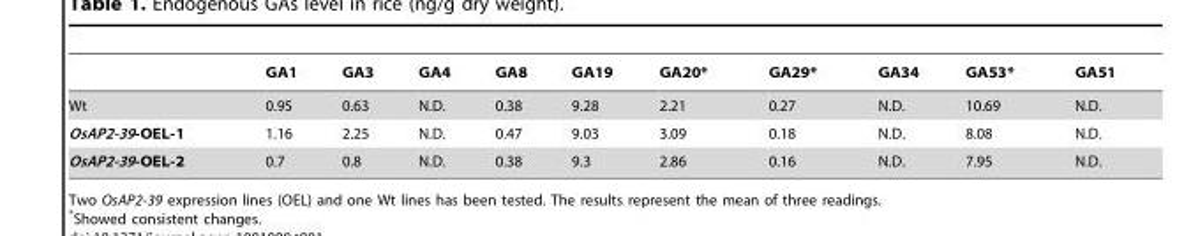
<table><thead><tr><td></td><td>GA1</td><td>GA3</td><td>GA4</td><td>GA8</td><td>GA19</td><td>GA20*</td><td>GA29*</td><td>GA34</td><td>GA53*</td><td>GA51</td></tr></thead><tbody><tr><td>Wt</td><td>0.95</td><td>0.63</td><td>N.D.</td><td>0.38</td><td>9.28</td><td>2.21</td><td>0.27</td><td>N.D.</td><td>10.69</td><td>N.D.</td></tr><tr><td>OsAP2-39-OEL-1</td><td>1.16</td><td>2.25</td><td>N.D.</td><td>0.47</td><td>9.03</td><td>3.09</td><td>0.18</td><td>N.D.</td><td>8.08</td><td>N.D.</td></tr><tr><td>OsAP2-39-OEL-2</td><td>0.7</td><td>0.8</td><td>N.D.</td><td>0.38</td><td>9.3</td><td>2.86</td><td>0.16</td><td>N.D.</td><td>7.95</td><td>N.D.</td></tr></tbody></table>